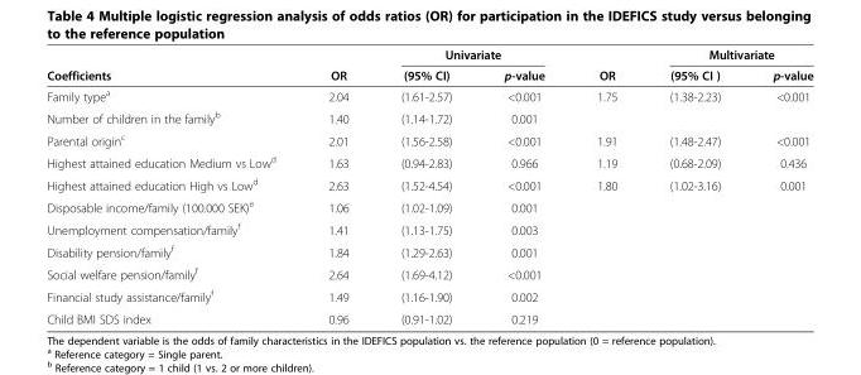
<table><thead><tr><td rowspan="2">Coefficients</td><td rowspan="2">OR</td><td colspan="2">Univariate</td><td rowspan="2">OR</td><td colspan="2">Multivariate</td></tr><tr><td>(95% CI)</td><td>p-value</td><td>(95% CI )</td><td>p-value</td></tr></thead><tbody><tr><td>Family type<sup>a</sup></td><td>2.04</td><td>(1.61-2.57)</td><td>&lt;0.001</td><td>1.75</td><td>(1.38-2.23)</td><td>&lt;0.001</td></tr><tr><td>Number of children in the family<sup>b</sup></td><td>1.40</td><td>(1.14-1.72)</td><td>0.001</td><td></td><td></td><td></td></tr><tr><td>Parental origin<sup>c</sup></td><td>2.01</td><td>(1.56-2.58)</td><td>&lt;0.001</td><td>1.91</td><td>(1.48-2.47)</td><td>&lt;0.001</td></tr><tr><td>Highest attained education Medium vs Low<sup>d</sup></td><td>1.63</td><td>(0.94-2.83)</td><td>0.966</td><td>1.19</td><td>(0.68-2.09)</td><td>0.436</td></tr><tr><td>Highest attained education High vs Low<sup>d</sup></td><td>2.63</td><td>(1.52-4.54)</td><td>&lt;0.001</td><td>1.80</td><td>(1.02-3.16)</td><td>0.001</td></tr><tr><td>Disposable income/family (100.000 SEK)<sup>e</sup></td><td>1.06</td><td>(1.02-1.09)</td><td>0.001</td><td></td><td></td><td></td></tr><tr><td>Unemployment compensation/family<sup>f</sup></td><td>1.41</td><td>(1.13-1.75)</td><td>0.003</td><td></td><td></td><td></td></tr><tr><td>Disability pension/family<sup>f</sup></td><td>1.84</td><td>(1.29-2.63)</td><td>0.001</td><td></td><td></td><td></td></tr><tr><td>Social welfare pension/family<sup>f</sup></td><td>2.64</td><td>(1.69-4.12)</td><td>&lt;0.001</td><td></td><td></td><td></td></tr><tr><td>Financial study assistance/family<sup>f</sup></td><td>1.49</td><td>(1.16-1.90)</td><td>0.002</td><td></td><td></td><td></td></tr><tr><td>Child BMI SDS index</td><td>0.96</td><td>(0.91-1.02)</td><td>0.219</td><td></td><td></td><td></td></tr></tbody></table>